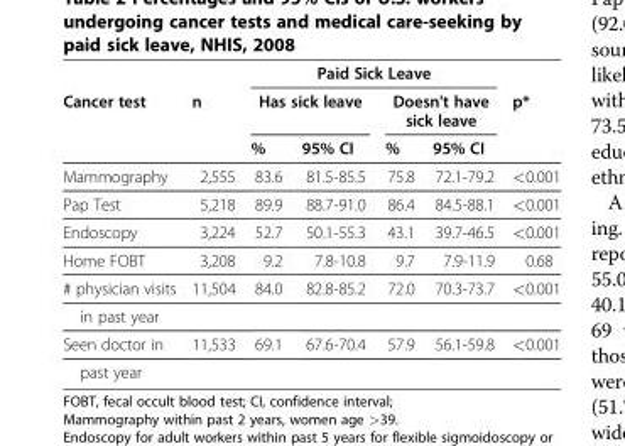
<table><thead><tr><td rowspan="3">Cancer test</td><td rowspan="3">n</td><td colspan="4">Paid Sick Leave</td><td rowspan="3">p*</td></tr><tr><td colspan="2">Has sick leave</td><td colspan="2">Doesn&#x27;t have sick leave</td></tr><tr><td>%</td><td>95% CI</td><td>%</td><td>95% CI</td></tr></thead><tbody><tr><td>Mammography</td><td>2,555</td><td>83.6</td><td>81.5-85.5</td><td>75.8</td><td>72.1-79.2</td><td>&lt;0.001</td></tr><tr><td>Pap Test</td><td>5,218</td><td>89.9</td><td>88.7-91.0</td><td>86.4</td><td>84.5-88.1</td><td>&lt;0.001</td></tr><tr><td>Endoscopy</td><td>3,224</td><td>52.7</td><td>50.1-55.3</td><td>43.1</td><td>39.7-46.5</td><td>&lt;0.001</td></tr><tr><td>Home FOBT</td><td>3,208</td><td>9.2</td><td>7.8-10.8</td><td>9.7</td><td>7.9-11.9</td><td>0.68</td></tr><tr><td># physician visits</td><td>11,504</td><td>84.0</td><td>82.8-85.2</td><td>72.0</td><td>70.3-73.7</td><td>&lt;0.001</td></tr><tr><td colspan="7">in past year</td></tr><tr><td>Seen doctor in</td><td>11,533</td><td>69.1</td><td>67.6-70.4</td><td>57.9</td><td>56.1-59.8</td><td>&lt;0.001</td></tr><tr><td>past year</td><td></td><td></td><td></td><td></td><td></td><td></td></tr></tbody></table>